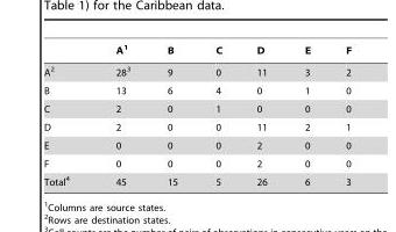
<table><thead><tr><td></td><td>A<sup>1</sup></td><td>B</td><td>C</td><td>D</td><td>E</td><td>F</td></tr></thead><tbody><tr><td>A<sup>2</sup></td><td>28<sup>3</sup></td><td>9</td><td>0</td><td>11</td><td>3</td><td>2</td></tr><tr><td>B</td><td>13</td><td>6</td><td>4</td><td>0</td><td>1</td><td>0</td></tr><tr><td>C</td><td>2</td><td>0</td><td>1</td><td>0</td><td>0</td><td>0</td></tr><tr><td>D</td><td>2</td><td>0</td><td>0</td><td>11</td><td>2</td><td>1</td></tr><tr><td>E</td><td>0</td><td>0</td><td>0</td><td>2</td><td>0</td><td>0</td></tr><tr><td>F</td><td>0</td><td>0</td><td>0</td><td>2</td><td>0</td><td>0</td></tr><tr><td>Total<sup>4</sup></td><td>45</td><td>15</td><td>5</td><td>26</td><td>6</td><td>3</td></tr></tbody></table>